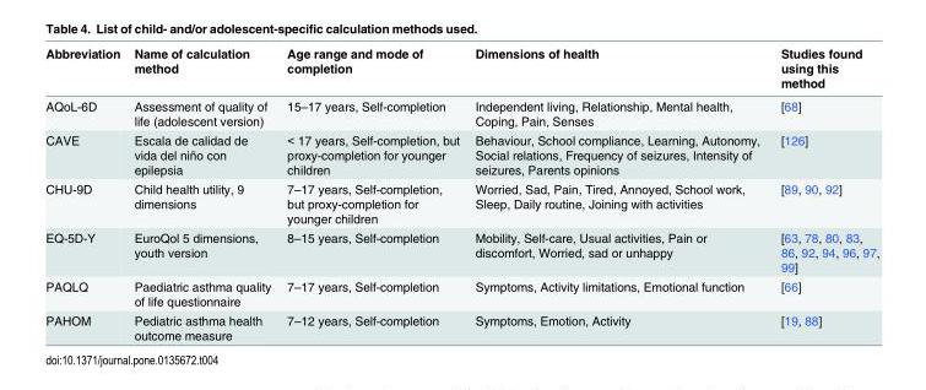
<table><thead><tr><td>Abbreviation</td><td>Name of calculation method</td><td>Age range and mode of completion</td><td>Dimensions of health</td><td>Studies found using this method</td></tr></thead><tbody><tr><td>AQoL-6D</td><td>Assessment of quality of life (adolescent version)</td><td>15–17 years, Self-completion</td><td>Independent living, Relationship, Mental health, Coping, Pain, Senses</td><td>[68]</td></tr><tr><td>CAVE</td><td>Escala de calidad de vida del niño con epilepsia</td><td>&lt; 17 years, Self-completion, but proxy-completion for younger children</td><td>Behaviour, School compliance, Learning, Autonomy, Social relations, Frequency of seizures, Intensity of seizures, Parents opinions</td><td>[126]</td></tr><tr><td>CHU-9D</td><td>Child health utility, 9 dimensions</td><td>7–17 years, Self-completion, but proxy-completion for younger children</td><td>Worried, Sad, Pain, Tired, Annoyed, School work, Sleep, Daily routine, Joining with activities</td><td>[89, 90, 92]</td></tr><tr><td>EQ-5D-Y</td><td>EuroQol 5 dimensions, youth version</td><td>8–15 years, Self-completion</td><td>Mobility, Self-care, Usual activities, Pain or discomfort, Worried, sad or unhappy</td><td>[63, 78, 80, 83, 86, 92, 94, 96, 97, 99]</td></tr><tr><td>PAQLQ</td><td>Paediatric asthma quality of life questionnaire</td><td>7–17 years, Self-completion</td><td>Symptoms, Activity limitations, Emotional function</td><td>[66]</td></tr><tr><td>PAHOM</td><td>Pediatric asthma health outcome measure</td><td>7–12 years, Self-completion</td><td>Symptoms, Emotion, Activity</td><td>[19, 88]</td></tr></tbody></table>